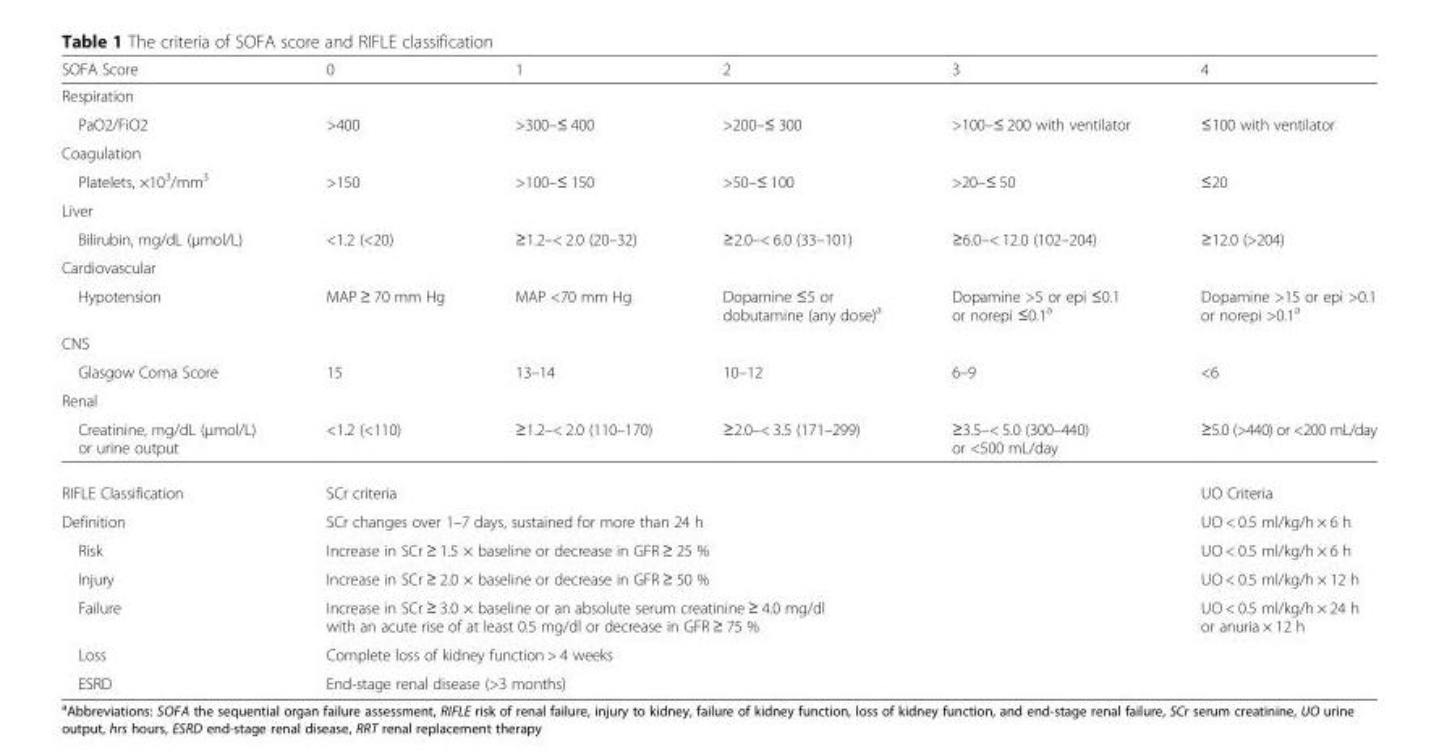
<table><thead><tr><td>SOFA Score</td><td>0</td><td>1</td><td>2</td><td>3</td><td>4</td></tr></thead><tbody><tr><td colspan="6">Respiration</td></tr><tr><td>PaO2/FiO2</td><td>&gt;400</td><td>&gt;300–≤ 400</td><td>&gt;200–≤ 300</td><td>&gt;100–≤ 200 with ventilator</td><td>≤100 with ventilator</td></tr><tr><td colspan="6">Coagulation</td></tr><tr><td>Platelets, ×10<sup>3</sup>/mm<sup>3</sup></td><td>&gt;150</td><td>&gt;100–≤ 150</td><td>&gt;50–≤ 100</td><td>&gt;20–≤ 50</td><td>≤20</td></tr><tr><td colspan="6">Liver</td></tr><tr><td>Bilirubin, mg/dL (μmol/L)</td><td>&lt;1.2 (&lt;20)</td><td>≥1.2–&lt; 2.0 (20–32)</td><td>≥2.0–&lt; 6.0 (33–101)</td><td>≥6.0–&lt; 12.0 (102–204)</td><td>≥12.0 (&gt;204)</td></tr><tr><td colspan="6">Cardiovascular</td></tr><tr><td>Hypotension</td><td>MAP ≥ 70 mm Hg</td><td>MAP &lt;70 mm Hg</td><td>Dopamine ≤5 or dobutamine (any dose)<sup>a</sup></td><td>Dopamine &gt;5 or epi ≤0.1 or norepi ≤0.1<sup>a</sup></td><td>Dopamine &gt;15 or epi &gt;0.1 or norepi &gt;0.1<sup>a</sup></td></tr><tr><td colspan="6">CNS</td></tr><tr><td>Glasgow Coma Score</td><td>15</td><td>13–14</td><td>10–12</td><td>6–9</td><td>&lt;6</td></tr><tr><td colspan="6">Renal</td></tr><tr><td>Creatinine, mg/dL (μmol/L) or urine output</td><td>&lt;1.2 (&lt;110)</td><td>≥1.2–&lt; 2.0 (110–170)</td><td>≥2.0–&lt; 3.5 (171–299)</td><td>≥3.5–&lt; 5.0 (300–440) or &lt;500 mL/day</td><td>≥5.0 (&gt;440) or &lt;200 mL/day</td></tr><tr><td>RIFLE Classification</td><td colspan="4">SCr criteria</td><td>UO Criteria</td></tr><tr><td>Definition</td><td colspan="4">SCr changes over 1–7 days, sustained for more than 24 h</td><td>UO &lt; 0.5 ml/kg/h × 6 h</td></tr><tr><td>Risk</td><td colspan="4">Increase in SCr ≥ 1.5 × baseline or decrease in GFR ≥ 25 %</td><td>UO &lt; 0.5 ml/kg/h × 6 h</td></tr><tr><td>Injury</td><td colspan="4">Increase in SCr ≥ 2.0 × baseline or decrease in GFR ≥ 50 %</td><td>UO &lt; 0.5 ml/kg/h × 12 h</td></tr><tr><td>Failure</td><td colspan="4">Increase in SCr ≥ 3.0 × baseline or an absolute serum creatinine ≥ 4.0 mg/dl with an acute rise of at least 0.5 mg/dl or decrease in GFR ≥ 75 %</td><td>UO &lt; 0.5 ml/kg/h × 24 h or anuria × 12 h</td></tr><tr><td>Loss</td><td colspan="4">Complete loss of kidney function &gt; 4 weeks</td><td></td></tr><tr><td>ESRD</td><td colspan="4">End-stage renal disease (&gt;3 months)</td><td></td></tr></tbody></table>